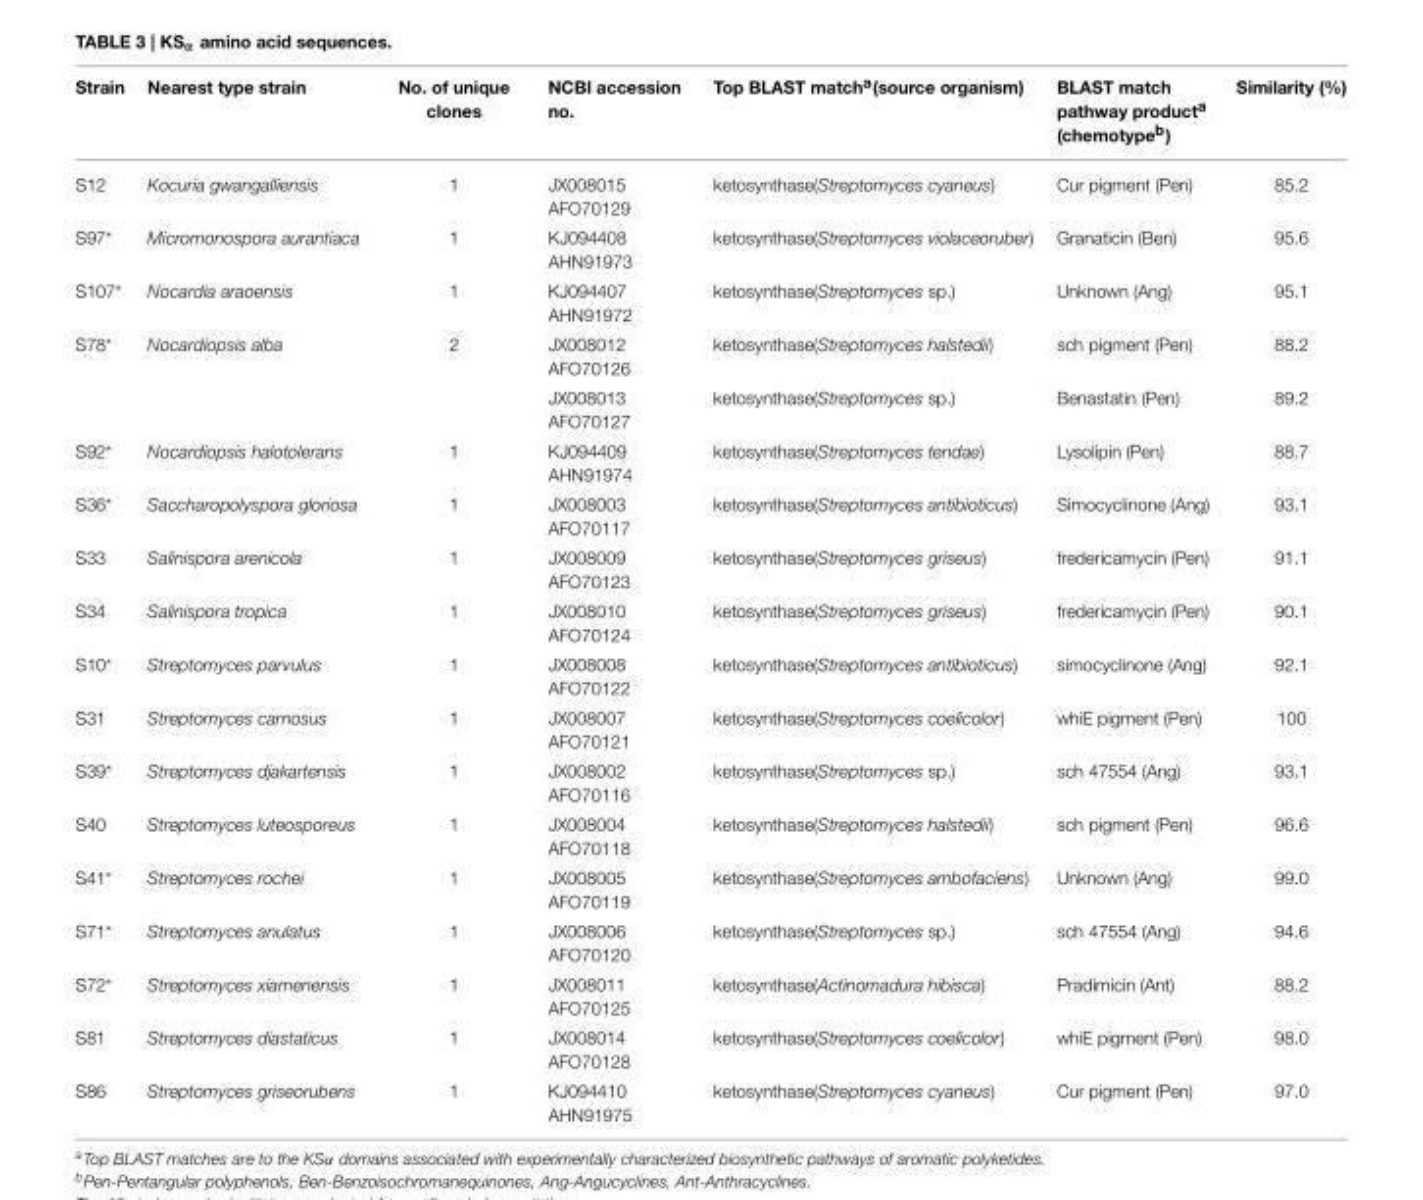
<table><thead><tr><td>Strain</td><td>Nearest type strain</td><td>No. of unique clones</td><td>NCBI accession no.</td><td>Top BLAST match<sup>a</sup>(source organism)</td><td>BLAST match pathway product<sup>a</sup> (chemotype<sup>b</sup>)</td><td>Similarity (%)</td></tr></thead><tbody><tr><td>S12</td><td>Kocuria gwangalliensis</td><td>1</td><td>JX008015 AFO70129</td><td>ketosynthase(Streptomyces cyaneus)</td><td>Cur pigment (Pen)</td><td>85.2</td></tr><tr><td>S97*</td><td>Micromonospora aurantiaca</td><td>1</td><td>KJ094408 AHN91973</td><td>ketosynthase(Streptomyces violaceoruber)</td><td>Granaticin (Ben)</td><td>95.6</td></tr><tr><td>S107*</td><td>Nocardia araoensis</td><td>1</td><td>KJ094407 AHN91972</td><td>ketosynthase(Streptomyces sp.)</td><td>Unknown (Ang)</td><td>95.1</td></tr><tr><td rowspan="2">S78*</td><td>Nocardiopsis alba</td><td>2</td><td>JX008012 AFO70126</td><td>ketosynthase(Streptomyces halstedii)</td><td>sch pigment (Pen)</td><td>88.2</td></tr><tr><td></td><td></td><td>JX008013 AFO70127</td><td>ketosynthase(Streptomyces sp.)</td><td>Benastatin (Pen)</td><td>89.2</td></tr><tr><td>S92*</td><td>Nocardiopsis halotolerans</td><td>1</td><td>KJ094409 AHN91974</td><td>ketosynthase(Streptomyces tendae)</td><td>Lysolipin (Pen)</td><td>88.7</td></tr><tr><td>S36*</td><td>Saccharopolyspora gloriosa</td><td>1</td><td>JX008003 AFO70117</td><td>ketosynthase(Streptomyces antibioticus)</td><td>Simocyclinone (Ang)</td><td>93.1</td></tr><tr><td>S33</td><td>Salinispora arenicola</td><td>1</td><td>JX008009 AFO70123</td><td>ketosynthase(Streptomyces griseus)</td><td>fredericamycin (Pen)</td><td>91.1</td></tr><tr><td>S34</td><td>Salinispora tropica</td><td>1</td><td>JX008010 AFO70124</td><td>ketosynthase(Streptomyces griseus)</td><td>fredericamycin (Pen)</td><td>90.1</td></tr><tr><td>S10*</td><td>Streptomyces parvulus</td><td>1</td><td>JX008008 AFO70122</td><td>ketosynthase(Streptomyces antibioticus)</td><td>simocyclinone (Ang)</td><td>92.1</td></tr><tr><td>S31</td><td>Streptomyces carnosus</td><td>1</td><td>JX008007 AFO70121</td><td>ketosynthase(Streptomyces coelicolor)</td><td>whiE pigment (Pen)</td><td>100</td></tr><tr><td>S39*</td><td>Streptomyces djakartensis</td><td>1</td><td>JX008002 AFO70116</td><td>ketosynthase(Streptomyces sp.)</td><td>sch 47554 (Ang)</td><td>93.1</td></tr><tr><td>S40</td><td>Streptomyces luteosporeus</td><td>1</td><td>JX008004 AFO70118</td><td>ketosynthase(Streptomyces halstedii)</td><td>sch pigment (Pen)</td><td>96.6</td></tr><tr><td>S41*</td><td>Streptomyces rochei</td><td>1</td><td>JX008005 AFO70119</td><td>ketosynthase(Streptomyces ambofaciens)</td><td>Unknown (Ang)</td><td>99.0</td></tr><tr><td>S71*</td><td>Streptomyces anulatus</td><td>1</td><td>JX008006 AFO70120</td><td>ketosynthase(Streptomyces sp.)</td><td>sch 47554 (Ang)</td><td>94.6</td></tr><tr><td>S72*</td><td>Streptomyces xiamenensis</td><td>1</td><td>JX008011 AFO70125</td><td>ketosynthase(Actinomadura hibisca)</td><td>Pradimicin (Ant)</td><td>88.2</td></tr><tr><td>S81</td><td>Streptomyces diastaticus</td><td>1</td><td>JX008014 AFO70128</td><td>ketosynthase(Streptomyces coelicolor)</td><td>whiE pigment (Pen)</td><td>98.0</td></tr><tr><td>S86</td><td>Streptomyces griseorubens</td><td>1</td><td>KJ094410 AHN91975</td><td>ketosynthase(Streptomyces cyaneus)</td><td>Cur pigment (Pen)</td><td>97.0</td></tr></tbody></table>